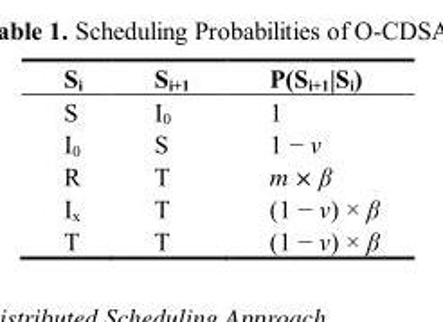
<table><thead><tr><td>S<sub>i</sub></td><td>S<sub>i+1</sub></td><td>P(Si+1|Si)</td></tr></thead><tbody><tr><td>S</td><td>I<sub>0</sub></td><td>1</td></tr><tr><td>I<sub>0</sub></td><td>S</td><td>1 − v</td></tr><tr><td>R</td><td>T</td><td>m × β</td></tr><tr><td>I<sub>x</sub></td><td>T</td><td>(1 − v) × β</td></tr><tr><td>T</td><td>T</td><td>(1 − v) × β</td></tr></tbody></table>